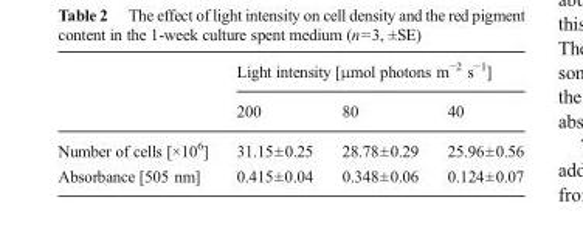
<table><thead><tr><td rowspan="2"></td><td colspan="3">Light intensity [μmol photons m<sup>−2</sup> s<sup>−1</sup>]</td></tr><tr><td>200</td><td>80</td><td>40</td></tr></thead><tbody><tr><td>Number of cells [×10<sup>6</sup>]</td><td>31.15±0.25</td><td>28.78±0.29</td><td>25.96±0.56</td></tr><tr><td>Absorbance [505 nm]</td><td>0.415±0.04</td><td>0.348±0.06</td><td>0.124±0.07</td></tr></tbody></table>